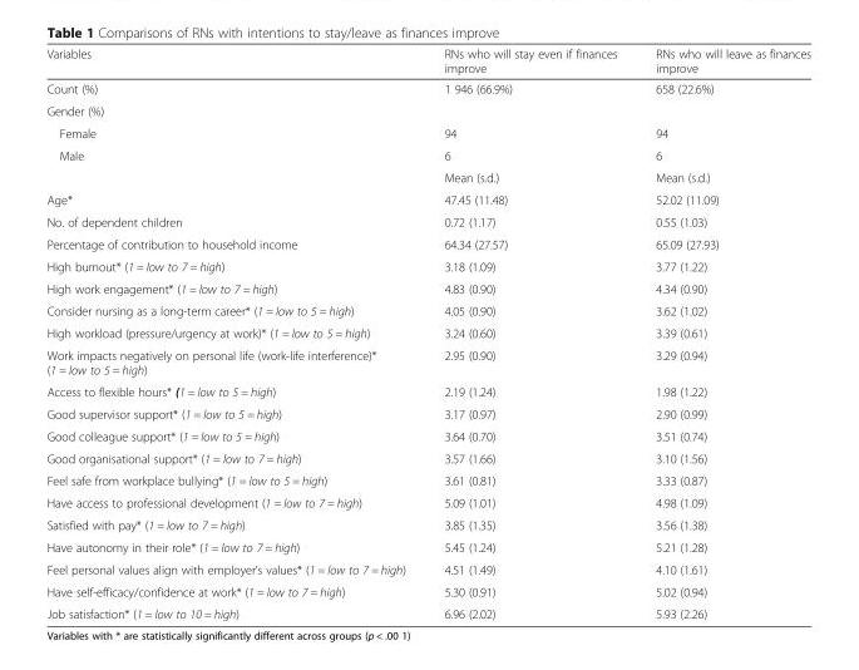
<table><thead><tr><td>Variables</td><td>RNs who will stay even if finances improve</td><td>RNs who will leave as finances improve</td></tr></thead><tbody><tr><td>Count (%)</td><td>1 946 (66.9%)</td><td>658 (22.6%)</td></tr><tr><td colspan="3">Gender (%)</td></tr><tr><td>Female</td><td>94</td><td>94</td></tr><tr><td rowspan="2">Male</td><td>6</td><td>6</td></tr><tr><td>Mean (s.d.)</td><td>Mean (s.d.)</td></tr><tr><td>Age*</td><td>47.45 (11.48)</td><td>52.02 (11.09)</td></tr><tr><td>No. of dependent children</td><td>0.72 (1.17)</td><td>0.55 (1.03)</td></tr><tr><td>Percentage of contribution to household income</td><td>64.34 (27.57)</td><td>65.09 (27.93)</td></tr><tr><td>High burnout* (1 = low to 7 = high)</td><td>3.18 (1.09)</td><td>3.77 (1.22)</td></tr><tr><td>High work engagement* (1 = low to 7 = high)</td><td>4.83 (0.90)</td><td>4.34 (0.90)</td></tr><tr><td>Consider nursing as a long-term career* (1 = low to 5 = high)</td><td>4.05 (0.90)</td><td>3.62 (1.02)</td></tr><tr><td>High workload (pressure/urgency at work)* (1 = low to 5 = high)</td><td>3.24 (0.60)</td><td>3.39 (0.61)</td></tr><tr><td>Work impacts negatively on personal life (work-life interference)* (1 = low to 5 = high)</td><td>2.95 (0.90)</td><td>3.29 (0.94)</td></tr><tr><td>Access to flexible hours* (1 = low to 5 = high)</td><td>2.19 (1.24)</td><td>1.98 (1.22)</td></tr><tr><td>Good supervisor support* (1 = low to 5 = high)</td><td>3.17 (0.97)</td><td>2.90 (0.99)</td></tr><tr><td>Good colleague support* (1 = low to 5 = high)</td><td>3.64 (0.70)</td><td>3.51 (0.74)</td></tr><tr><td>Good organisational support* (1 = low to 7 = high)</td><td>3.57 (1.66)</td><td>3.10 (1.56)</td></tr><tr><td>Feel safe from workplace bullying* (1 = low to 5 = high)</td><td>3.61 (0.81)</td><td>3.33 (0.87)</td></tr><tr><td>Have access to professional development (1 = low to 7 = high)</td><td>5.09 (1.01)</td><td>4.98 (1.09)</td></tr><tr><td>Satisfied with pay* (1 = low to 7 = high)</td><td>3.85 (1.35)</td><td>3.56 (1.38)</td></tr><tr><td>Have autonomy in their role* (1 = low to 7 = high)</td><td>5.45 (1.24)</td><td>5.21 (1.28)</td></tr><tr><td>Feel personal values align with employer’s values* (1 = low to 7 = high)</td><td>4.51 (1.49)</td><td>4.10 (1.61)</td></tr><tr><td>Have self-efficacy/confidence at work* (1 = low to 7 = high)</td><td>5.30 (0.91)</td><td>5.02 (0.94)</td></tr><tr><td>Job satisfaction* (1 = low to 10 = high)</td><td>6.96 (2.02)</td><td>5.93 (2.26)</td></tr></tbody></table>